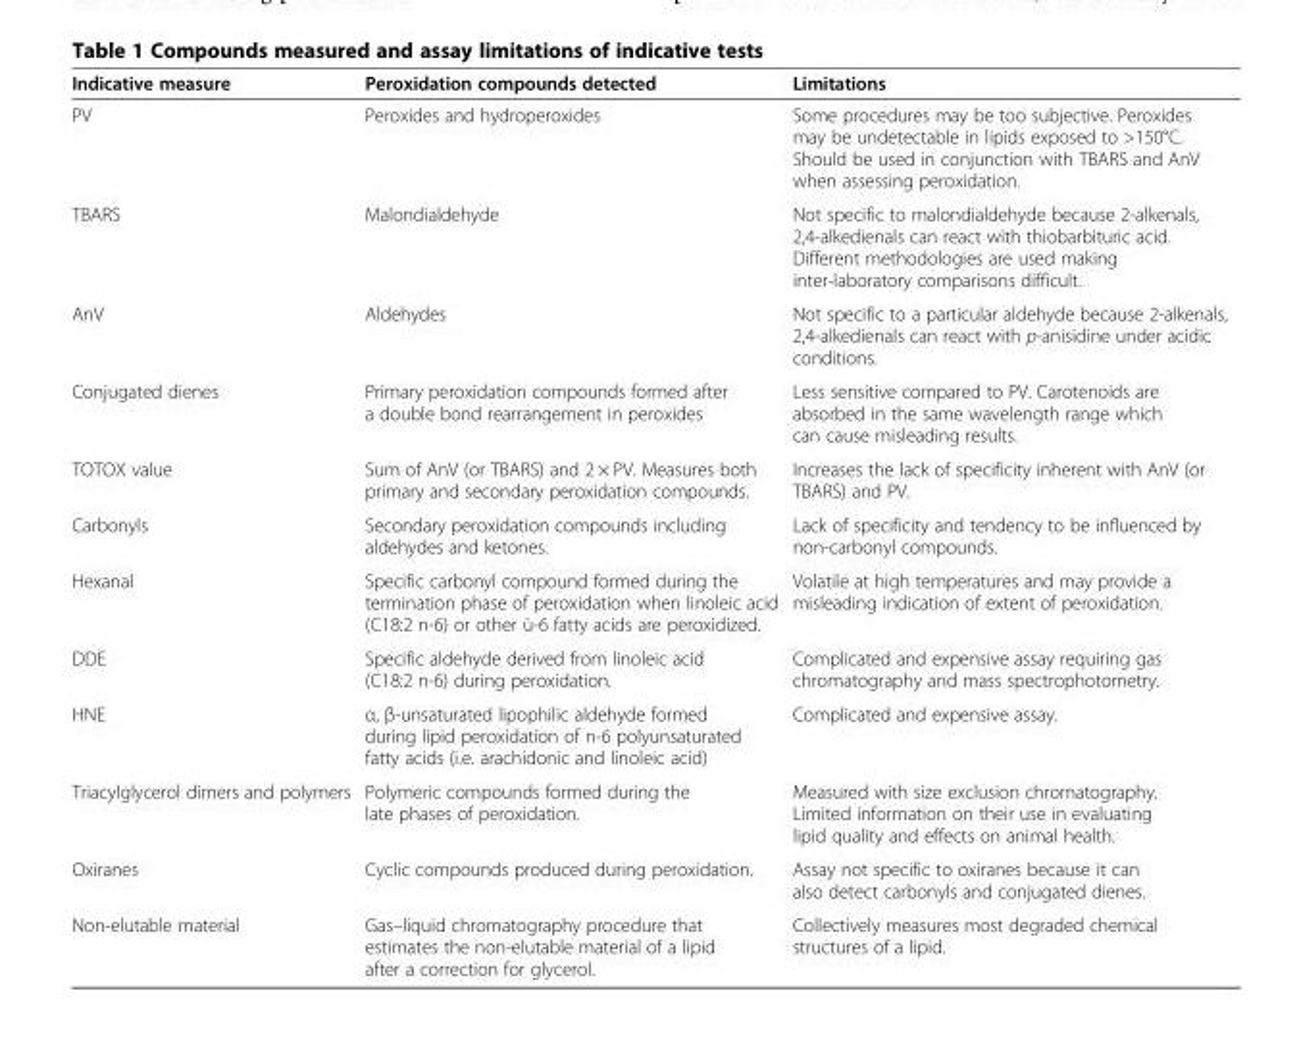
<table><thead><tr><td>Indicative measure</td><td>Peroxidation compounds detected</td><td>Limitations</td></tr></thead><tbody><tr><td>PV</td><td>Peroxides and hydroperoxides</td><td>Some procedures may be too subjective. Peroxides may be undetectable in lipids exposed to &gt;150°C. Should be used in conjunction with TBARS and AnV when assessing peroxidation.</td></tr><tr><td>TBARS</td><td>Malondialdehyde</td><td>Not specific to malondialdehyde because 2-alkenals, 2,4-alkedienals can react with thiobarbituric acid. Different methodologies are used making inter-laboratory comparisons difficult.</td></tr><tr><td>AnV</td><td>Aldehydes</td><td>Not specific to a particular aldehyde because 2-alkenals, 2,4-alkedienals can react with p-anisidine under acidic conditions.</td></tr><tr><td>Conjugated dienes</td><td>Primary peroxidation compounds formed after a double bond rearrangement in peroxides</td><td>Less sensitive compared to PV. Carotenoids are absorbed in the same wavelength range which can cause misleading results.</td></tr><tr><td>TOTOX value</td><td>Sum of AnV (or TBARS) and 2 × PV. Measures both primary and secondary peroxidation compounds.</td><td>Increases the lack of specificity inherent with AnV (or TBARS) and PV.</td></tr><tr><td>Carbonyls</td><td>Secondary peroxidation compounds including aldehydes and ketones.</td><td>Lack of specificity and tendency to be influenced by non-carbonyl compounds.</td></tr><tr><td>Hexanal</td><td>Specific carbonyl compound formed during the termination phase of peroxidation when linoleic acid (C18:2 n-6) or other ù-6 fatty acids are peroxidized.</td><td>Volatile at high temperatures and may provide a misleading indication of extent of peroxidation.</td></tr><tr><td>DDE</td><td>Specific aldehyde derived from linoleic acid (C18:2 n-6) during peroxidation.</td><td>Complicated and expensive assay requiring gas chromatography and mass spectrophotometry.</td></tr><tr><td>HNE</td><td>α, β-unsaturated lipophilic aldehyde formed during lipid peroxidation of n-6 polyunsaturated fatty acids (i.e. arachidonic and linoleic acid)</td><td>Complicated and expensive assay.</td></tr><tr><td>Triacylglycerol dimers and polymers</td><td>Polymeric compounds formed during the late phases of peroxidation.</td><td>Measured with size exclusion chromatography. Limited information on their use in evaluating lipid quality and effects on animal health.</td></tr><tr><td>Oxiranes</td><td>Cyclic compounds produced during peroxidation.</td><td>Assay not specific to oxiranes because it can also detect carbonyls and conjugated dienes.</td></tr><tr><td>Non-elutable material</td><td>Gas–liquid chromatography procedure that estimates the non-elutable material of a lipid after a correction for glycerol.</td><td>Collectively measures most degraded chemical structures of a lipid.</td></tr></tbody></table>